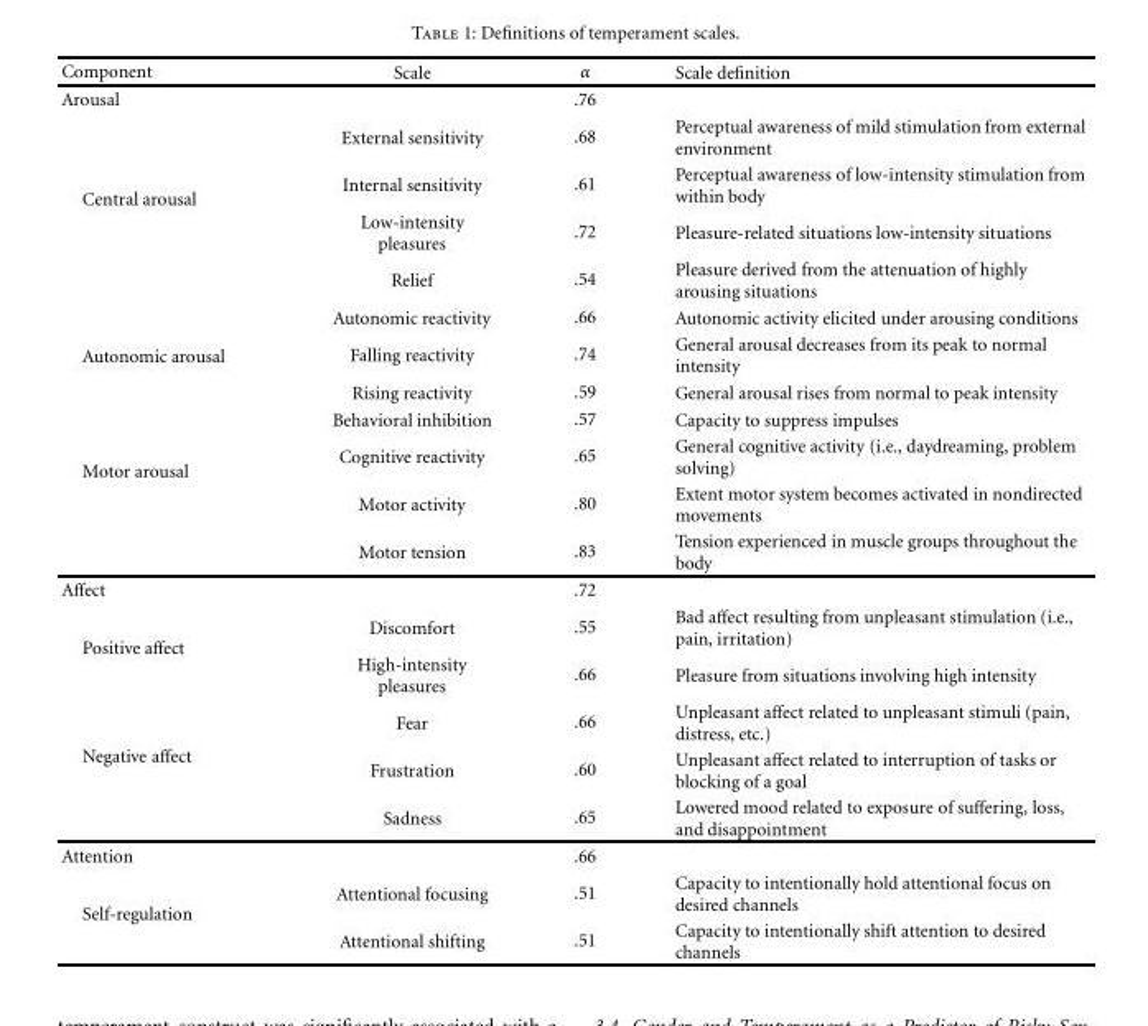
<table><thead><tr><td>Component</td><td>Scale</td><td>α</td><td>Scale definition</td></tr></thead><tbody><tr><td>Arousal</td><td></td><td>.76</td><td></td></tr><tr><td rowspan="4">Central arousal</td><td>External sensitivity</td><td>.68</td><td>Perceptual awareness of mild stimulation from external environment</td></tr><tr><td>Internal sensitivity</td><td>.61</td><td>Perceptual awareness of low-intensity stimulation from within body</td></tr><tr><td>Low-intensity pleasures</td><td>.72</td><td>Pleasure-related situations low-intensity situations</td></tr><tr><td>Relief</td><td>.54</td><td>Pleasure derived from the attenuation of highly arousing situations</td></tr><tr><td rowspan="3">Autonomic arousal</td><td>Autonomic reactivity</td><td>.66</td><td>Autonomic activity elicited under arousing conditions</td></tr><tr><td>Falling reactivity</td><td>.74</td><td>General arousal decreases from its peak to normal intensity</td></tr><tr><td>Rising reactivity</td><td>.59</td><td>General arousal rises from normal to peak intensity</td></tr><tr><td rowspan="4">Motor arousal</td><td>Behavioral inhibition</td><td>.57</td><td>Capacity to suppress impulses</td></tr><tr><td>Cognitive reactivity</td><td>.65</td><td>General cognitive activity (i.e., daydreaming, problem solving)</td></tr><tr><td>Motor activity</td><td>.80</td><td>Extent motor system becomes activated in nondirected movements</td></tr><tr><td>Motor tension</td><td>.83</td><td>Tension experienced in muscle groups throughout the body</td></tr><tr><td>Affect</td><td></td><td>.72</td><td></td></tr><tr><td rowspan="2">Positive affect</td><td>Discomfort</td><td>.55</td><td>Bad affect resulting from unpleasant stimulation (i.e., pain, irritation)</td></tr><tr><td>High-intensity pleasures</td><td>.66</td><td>Pleasure from situations involving high intensity</td></tr><tr><td rowspan="3">Negative affect</td><td>Fear</td><td>.66</td><td>Unpleasant affect related to unpleasant stimuli (pain, distress, etc.)</td></tr><tr><td>Frustration</td><td>.60</td><td>Unpleasant affect related to interruption of tasks or blocking of a goal</td></tr><tr><td>Sadness</td><td>.65</td><td>Lowered mood related to exposure of suffering, loss, and disappointment</td></tr><tr><td>Attention</td><td></td><td>.66</td><td></td></tr><tr><td rowspan="2">Self-regulation</td><td>Attentional focusing</td><td>.51</td><td>Capacity to intentionally hold attentional focus on desired channels</td></tr><tr><td>Attentional shifting</td><td>.51</td><td>Capacity to intentionally shift attention to desired channels</td></tr></tbody></table>